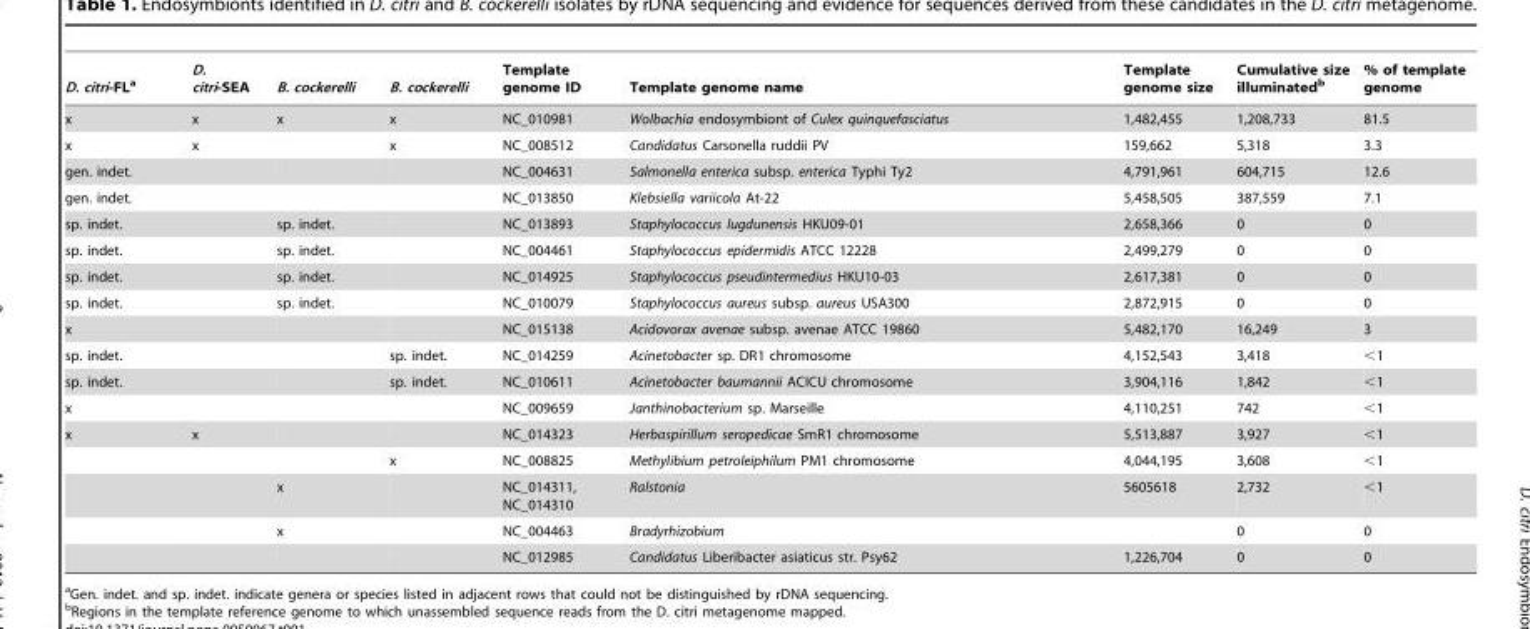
<table><thead><tr><td>D. citri-FL<sup>a</sup></td><td>D. citri-SEA</td><td>B. cockerelli</td><td>B. cockerelli</td><td>Template genome ID</td><td>Template genome name</td><td>Template genome size</td><td>Cumulative size illuminated<sup>b</sup></td><td>% of template genome</td></tr></thead><tbody><tr><td>x</td><td>x</td><td>x</td><td>x</td><td>NC_010981</td><td>Wolbachia endosymbiont of Culex quinquefasciatus</td><td>1,482,455</td><td>1,208,733</td><td>81.5</td></tr><tr><td>x</td><td>x</td><td></td><td>x</td><td>NC_008512</td><td>Candidatus Carsonella ruddii PV</td><td>159,662</td><td>5,318</td><td>3.3</td></tr><tr><td>gen. indet.</td><td></td><td></td><td></td><td>NC_004631</td><td>Salmonella enterica subsp. enterica Typhi Ty2</td><td>4,791,961</td><td>604,715</td><td>12.6</td></tr><tr><td>gen. indet.</td><td></td><td></td><td></td><td>NC_013850</td><td>Klebsiella variicola At-22</td><td>5,458,505</td><td>387,559</td><td>7.1</td></tr><tr><td>sp. indet.</td><td></td><td>sp. indet.</td><td></td><td>NC_013893</td><td>Staphylococcus lugdunensis HKU09-01</td><td>2,658,366</td><td>0</td><td>0</td></tr><tr><td>sp. indet.</td><td></td><td>sp. indet.</td><td></td><td>NC_004461</td><td>Staphylococcus epidermidis ATCC 12228</td><td>2,499,279</td><td>0</td><td>0</td></tr><tr><td>sp. indet.</td><td></td><td>sp. indet.</td><td></td><td>NC_014925</td><td>Staphylococcus pseudintermedius HKU10-03</td><td>2,617,381</td><td>0</td><td>0</td></tr><tr><td>sp. indet.</td><td></td><td>sp. indet.</td><td></td><td>NC_010079</td><td>Staphylococcus aureus subsp. aureus USA300</td><td>2,872,915</td><td>0</td><td>0</td></tr><tr><td>x</td><td></td><td></td><td></td><td>NC_015138</td><td>Acidovorax avenae subsp. avenae ATCC 19860</td><td>5,482,170</td><td>16,249</td><td>3</td></tr><tr><td>sp. indet.</td><td></td><td></td><td>sp. indet.</td><td>NC_014259</td><td>Acinetobacter sp. DR1 chromosome</td><td>4,152,543</td><td>3,418</td><td>&lt;1</td></tr><tr><td>sp. indet.</td><td></td><td></td><td>sp. indet.</td><td>NC_010611</td><td>Acinetobacter baumannii ACICU chromosome</td><td>3,904,116</td><td>1,842</td><td>&lt;1</td></tr><tr><td>x</td><td></td><td></td><td></td><td>NC_009659</td><td>Janthinobacterium sp. Marseille</td><td>4,110,251</td><td>742</td><td>&lt;1</td></tr><tr><td rowspan="5">x</td><td>x</td><td></td><td></td><td>NC_014323</td><td>Herbaspirillum seropedicae SmR1 chromosome</td><td>5,513,887</td><td>3,927</td><td>&lt;1</td></tr><tr><td></td><td></td><td>x</td><td>NC_008825</td><td>Methylibium petroleiphilum PM1 chromosome</td><td>4,044,195</td><td>3,608</td><td>&lt;1</td></tr><tr><td></td><td>x</td><td></td><td>NC_014311, NC_014310</td><td>Ralstonia</td><td>5605618</td><td>2,732</td><td>&lt;1</td></tr><tr><td></td><td>x</td><td></td><td>NC_004463</td><td>Bradyrhizobium</td><td></td><td>0</td><td>0</td></tr><tr><td></td><td></td><td></td><td>NC_012985</td><td>Candidatus Liberibacter asiaticus str. Psy62</td><td>1,226,704</td><td>0</td><td>0</td></tr></tbody></table>